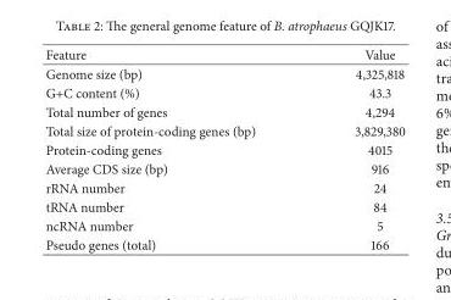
<table><thead><tr><td>Feature</td><td>Value</td></tr></thead><tbody><tr><td>Genome size (bp)</td><td>4,325,818</td></tr><tr><td>G+C content (%)</td><td>43.3</td></tr><tr><td>Total number of genes</td><td>4,294</td></tr><tr><td>Total size of protein-coding genes (bp)</td><td>3,829,380</td></tr><tr><td>Protein-coding genes</td><td>4015</td></tr><tr><td>Average CDS size (bp)</td><td>916</td></tr><tr><td>rRNA number</td><td>24</td></tr><tr><td>tRNA number</td><td>84</td></tr><tr><td>ncRNA number</td><td>5</td></tr><tr><td>Pseudo genes (total)</td><td>166</td></tr></tbody></table>